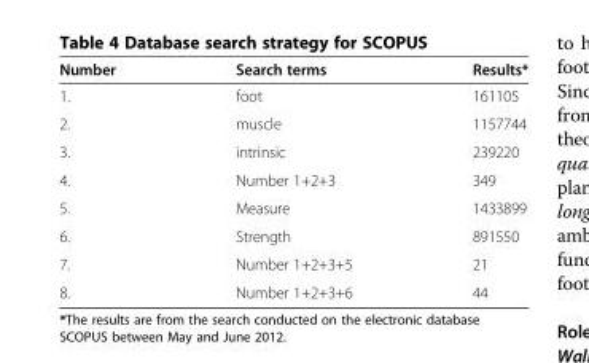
<table><thead><tr><td>Number</td><td>Search terms</td><td>Results*</td></tr></thead><tbody><tr><td>1.</td><td>foot</td><td>161105</td></tr><tr><td>2.</td><td>muscle</td><td>1157744</td></tr><tr><td>3.</td><td>intrinsic</td><td>239220</td></tr><tr><td>4.</td><td>Number 1+2+3</td><td>349</td></tr><tr><td>5.</td><td>Measure</td><td>1433899</td></tr><tr><td>6.</td><td>Strength</td><td>891550</td></tr><tr><td>7.</td><td>Number 1+2+3+5</td><td>21</td></tr><tr><td>8.</td><td>Number 1+2+3+6</td><td>44</td></tr></tbody></table>